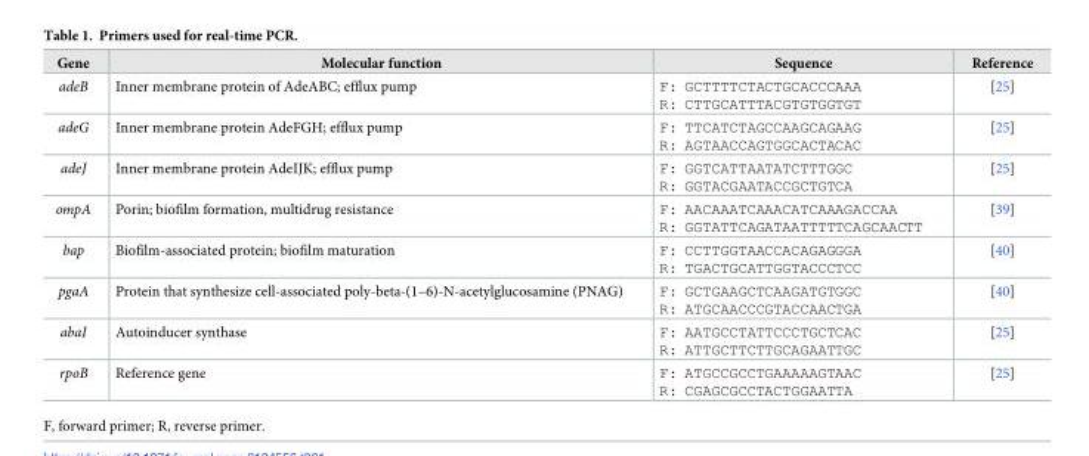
<table><thead><tr><td>Gene</td><td>Molecular function</td><td>Sequence</td><td>Reference</td></tr></thead><tbody><tr><td>adeB</td><td>Inner membrane protein of AdeABC; efflux pump</td><td>F: GCTTTTCTACTGCACCCAAA R: CTTGCATTTACGTGTGGTGT</td><td>[25]</td></tr><tr><td>adeG</td><td>Inner membrane protein AdeFGH; efflux pump</td><td>F: TTCATCTAGCCAAGCAGAAG R: AGTAACCAGTGGCACTACAC</td><td>[25]</td></tr><tr><td>adeJ</td><td>Inner membrane protein AdeIJK; efflux pump</td><td>F: GGTCATTAATATCTTTGGC R: GGTACGAATACCGCTGTCA</td><td>[25]</td></tr><tr><td>ompA</td><td>Porin; biofilm formation, multidrug resistance</td><td>F: AACAAATCAAACATCAAAGACCAA R: GGTATTCAGATAATTTTTCAGCAACTT</td><td>[39]</td></tr><tr><td>bap</td><td>Biofilm-associated protein; biofilm maturation</td><td>F: CCTTGGTAACCACAGAGGGA R: TGACTGCATTGGTACCCTCC</td><td>[40]</td></tr><tr><td>pgaA</td><td>Protein that synthesize cell-associated poly-beta-(1–6)-N-acetylglucosamine (PNAG)</td><td>F: GCTGAAGCTCAAGATGTGGC R: ATGCAACCCGTACCAACTGA</td><td>[40]</td></tr><tr><td>abaI</td><td>Autoinducer synthase</td><td>F: AATGCCTATTCCCTGCTCAC R: ATTGCTTCTTGCAGAATTGC</td><td>[25]</td></tr><tr><td>rpoB</td><td>Reference gene</td><td>F: ATGCCGCCTGAAAAAGTAAC R: CGAGCGCCTACTGGAATTA</td><td>[25]</td></tr></tbody></table>